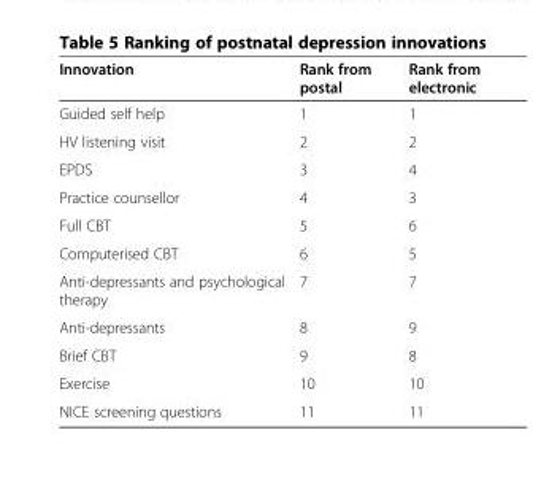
<table><thead><tr><td>Innovation</td><td>Rank from postal</td><td>Rank from electronic</td></tr></thead><tbody><tr><td>Guided self help</td><td>1</td><td>1</td></tr><tr><td>HV listening visit</td><td>2</td><td>2</td></tr><tr><td>EPDS</td><td>3</td><td>4</td></tr><tr><td>Practice counsellor</td><td>4</td><td>3</td></tr><tr><td>Full CBT</td><td>5</td><td>6</td></tr><tr><td>Computerised CBT</td><td>6</td><td>5</td></tr><tr><td>Anti-depressants and psychological therapy</td><td>7</td><td>7</td></tr><tr><td>Anti-depressants</td><td>8</td><td>9</td></tr><tr><td>Brief CBT</td><td>9</td><td>8</td></tr><tr><td>Exercise</td><td>10</td><td>10</td></tr><tr><td>NICE screening questions</td><td>11</td><td>11</td></tr></tbody></table>